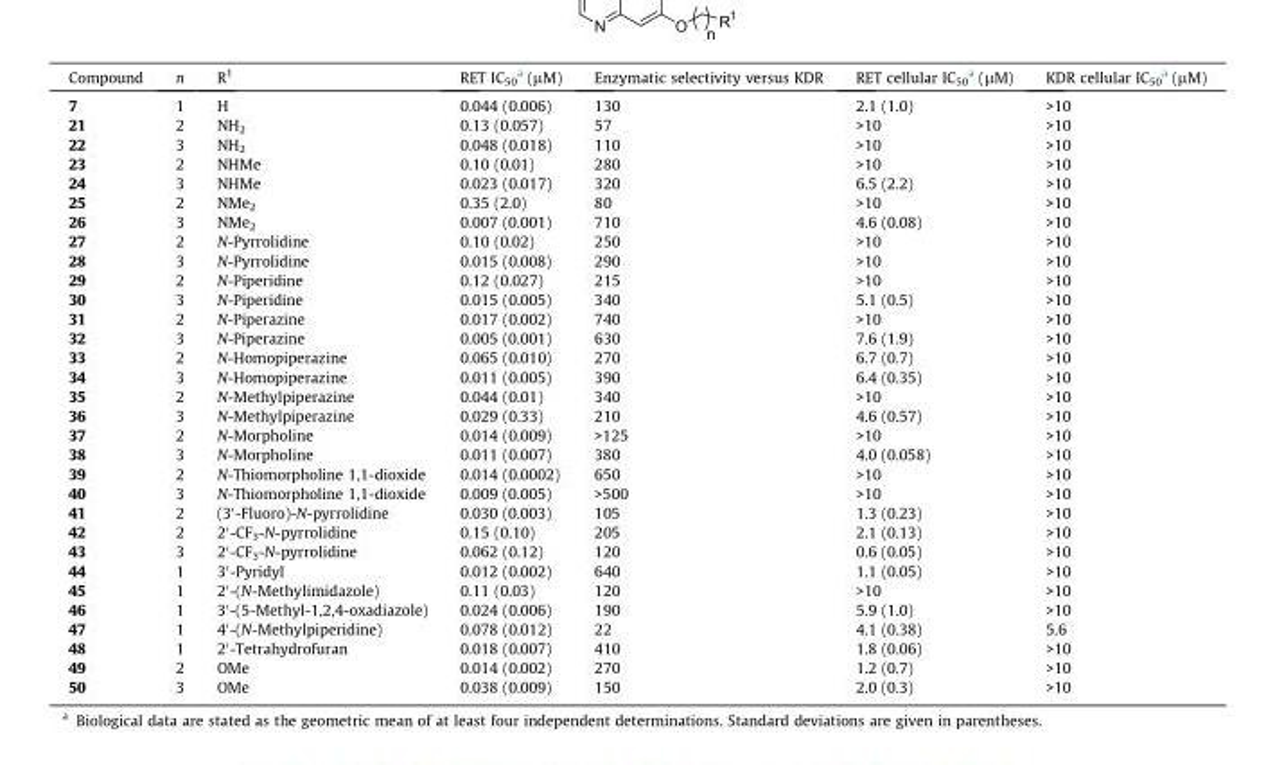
<table><thead><tr><td>Compound</td><td>n</td><td>R<sup>1</sup></td><td>RET IC<sub>50</sub> <sup>a</sup> (μM)</td><td>Enzymatic selectivity versus KDR</td><td>RET cellular IC<sub>50</sub> <sup>a</sup> (μM)</td><td>KDR cellular IC<sub>50</sub> <sup>a</sup> (μM)</td></tr></thead><tbody><tr><td>7</td><td>1</td><td>H</td><td>0.044 (0.006)</td><td>130</td><td>2.1 (1.0)</td><td>&gt;10</td></tr><tr><td>21</td><td>2</td><td>NH<sub>2</sub></td><td>0.13 (0.057)</td><td>57</td><td>&gt;10</td><td>&gt;10</td></tr><tr><td>22</td><td>3</td><td>NH<sub>2</sub></td><td>0.048 (0.018)</td><td>110</td><td>&gt;10</td><td>&gt;10</td></tr><tr><td>23</td><td>2</td><td>NHMe</td><td>0.10 (0.01)</td><td>280</td><td>&gt;10</td><td>&gt;10</td></tr><tr><td>24</td><td>3</td><td>NHMe</td><td>0.023 (0.017)</td><td>320</td><td>6.5 (2.2)</td><td>&gt;10</td></tr><tr><td>25</td><td>2</td><td>NMe<sub>2</sub></td><td>0.35 (2.0)</td><td>80</td><td>&gt;10</td><td>&gt;10</td></tr><tr><td>26</td><td>3</td><td>NMe<sub>2</sub></td><td>0.007 (0.001)</td><td>710</td><td>4.6 (0.08)</td><td>&gt;10</td></tr><tr><td>27</td><td>2</td><td>N-Pyrrolidine</td><td>0.10 (0.02)</td><td>250</td><td>&gt;10</td><td>&gt;10</td></tr><tr><td>28</td><td>3</td><td>N-Pyrrolidine</td><td>0.015 (0.008)</td><td>290</td><td>&gt;10</td><td>&gt;10</td></tr><tr><td>29</td><td>2</td><td>N-Piperidine</td><td>0.12 (0.027)</td><td>215</td><td>&gt;10</td><td>&gt;10</td></tr><tr><td>30</td><td>3</td><td>N-Piperidine</td><td>0.015 (0.005)</td><td>340</td><td>5.1 (0.5)</td><td>&gt;10</td></tr><tr><td>31</td><td>2</td><td>N-Piperazine</td><td>0.017 (0.002)</td><td>740</td><td>&gt;10</td><td>&gt;10</td></tr><tr><td>32</td><td>3</td><td>N-Piperazine</td><td>0.005 (0.001)</td><td>630</td><td>7.6 (1.9)</td><td>&gt;10</td></tr><tr><td>33</td><td>2</td><td>N-Homopiperazine</td><td>0.065 (0.010)</td><td>270</td><td>6.7 (0.7)</td><td>&gt;10</td></tr><tr><td>34</td><td>3</td><td>N-Homopiperazine</td><td>0.011 (0.005)</td><td>390</td><td>6.4 (0.35)</td><td>&gt;10</td></tr><tr><td>35</td><td>2</td><td>N-Methylpiperazine</td><td>0.044 (0.01)</td><td>340</td><td>&gt;10</td><td>&gt;10</td></tr><tr><td>36</td><td>3</td><td>N-Methylpiperazine</td><td>0.029 (0.33)</td><td>210</td><td>4.6 (0.57)</td><td>&gt;10</td></tr><tr><td>37</td><td>2</td><td>N-Morpholine</td><td>0.014 (0.009)</td><td>&gt;125</td><td>&gt;10</td><td>&gt;10</td></tr><tr><td>38</td><td>3</td><td>N-Morpholine</td><td>0.011 (0.007)</td><td>380</td><td>4.0 (0.058)</td><td>&gt;10</td></tr><tr><td>39</td><td>2</td><td>N-Thiomorpholine 1,1-dioxide</td><td>0.014 (0.0002)</td><td>650</td><td>&gt;10</td><td>&gt;10</td></tr><tr><td>40</td><td>3</td><td>N-Thiomorpholine 1,1-dioxide</td><td>0.009 (0.005)</td><td>&gt;500</td><td>&gt;10</td><td>&gt;10</td></tr><tr><td>41</td><td>2</td><td>(3′-Fluoro)-N-pyrrolidine</td><td>0.030 (0.003)</td><td>105</td><td>1.3 (0.23)</td><td>&gt;10</td></tr><tr><td>42</td><td>2</td><td>2′-CF<sub>3</sub>-N-pyrrolidine</td><td>0.15 (0.10)</td><td>205</td><td>2.1 (0.13)</td><td>&gt;10</td></tr><tr><td>43</td><td>3</td><td>2′-CF<sub>3</sub>-N-pyrrolidine</td><td>0.062 (0.12)</td><td>120</td><td>0.6 (0.05)</td><td>&gt;10</td></tr><tr><td>44</td><td>1</td><td>3′-Pyridyl</td><td>0.012 (0.002)</td><td>640</td><td>1.1 (0.05)</td><td>&gt;10</td></tr><tr><td>45</td><td>1</td><td>2′-(N-Methylimidazole)</td><td>0.11 (0.03)</td><td>120</td><td>&gt;10</td><td>&gt;10</td></tr><tr><td>46</td><td>1</td><td>3′-(5-Methyl-1,2,4-oxadiazole)</td><td>0.024 (0.006)</td><td>190</td><td>5.9 (1.0)</td><td>&gt;10</td></tr><tr><td>47</td><td>1</td><td>4′-(N-Methylpiperidine)</td><td>0.078 (0.012)</td><td>22</td><td>4.1 (0.38)</td><td>5.6</td></tr><tr><td>48</td><td>1</td><td>2′-Tetrahydrofuran</td><td>0.018 (0.007)</td><td>410</td><td>1.8 (0.06)</td><td>&gt;10</td></tr><tr><td>49</td><td>2</td><td>OMe</td><td>0.014 (0.002)</td><td>270</td><td>1.2 (0.7)</td><td>&gt;10</td></tr><tr><td>50</td><td>3</td><td>OMe</td><td>0.038 (0.009)</td><td>150</td><td>2.0 (0.3)</td><td>&gt;10</td></tr></tbody></table>